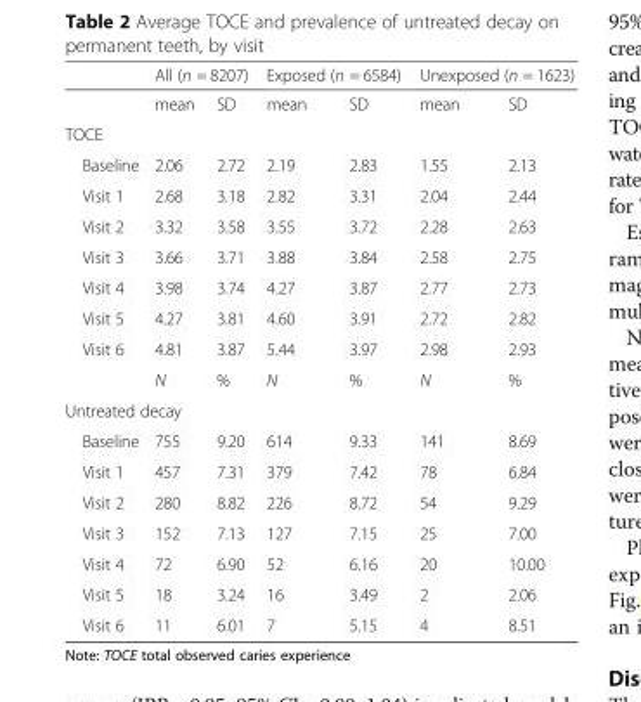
<table><thead><tr><td rowspan="2"></td><td colspan="2">All (n = 8207)</td><td colspan="2">Exposed (n = 6584)</td><td colspan="2">Unexposed (n = 1623)</td></tr><tr><td>mean</td><td>SD</td><td>mean</td><td>SD</td><td>mean</td><td>SD</td></tr></thead><tbody><tr><td colspan="7">TOCE</td></tr><tr><td>Baseline</td><td>2.06</td><td>2.72</td><td>2.19</td><td>2.83</td><td>1.55</td><td>2.13</td></tr><tr><td>Visit 1</td><td>2.68</td><td>3.18</td><td>2.82</td><td>3.31</td><td>2.04</td><td>2.44</td></tr><tr><td>Visit 2</td><td>3.32</td><td>3.58</td><td>3.55</td><td>3.72</td><td>2.28</td><td>2.63</td></tr><tr><td>Visit 3</td><td>3.66</td><td>3.71</td><td>3.88</td><td>3.84</td><td>2.58</td><td>2.75</td></tr><tr><td>Visit 4</td><td>3.98</td><td>3.74</td><td>4.27</td><td>3.87</td><td>2.77</td><td>2.73</td></tr><tr><td>Visit 5</td><td>4.27</td><td>3.81</td><td>4.60</td><td>3.91</td><td>2.72</td><td>2.82</td></tr><tr><td rowspan="2">Visit 6</td><td>4.81</td><td>3.87</td><td>5.44</td><td>3.97</td><td>2.98</td><td>2.93</td></tr><tr><td>N</td><td>%</td><td>N</td><td>%</td><td>N</td><td>%</td></tr><tr><td colspan="7">Untreated decay</td></tr><tr><td>Baseline</td><td>755</td><td>9.20</td><td>614</td><td>9.33</td><td>141</td><td>8.69</td></tr><tr><td>Visit 1</td><td>457</td><td>7.31</td><td>379</td><td>7.42</td><td>78</td><td>6.84</td></tr><tr><td>Visit 2</td><td>280</td><td>8.82</td><td>226</td><td>8.72</td><td>54</td><td>9.29</td></tr><tr><td>Visit 3</td><td>152</td><td>7.13</td><td>127</td><td>7.15</td><td>25</td><td>7.00</td></tr><tr><td>Visit 4</td><td>72</td><td>6.90</td><td>52</td><td>6.16</td><td>20</td><td>10.00</td></tr><tr><td>Visit 5</td><td>18</td><td>3.24</td><td>16</td><td>3.49</td><td>2</td><td>2.06</td></tr><tr><td>Visit 6</td><td>11</td><td>6.01</td><td>7</td><td>5.15</td><td>4</td><td>8.51</td></tr></tbody></table>